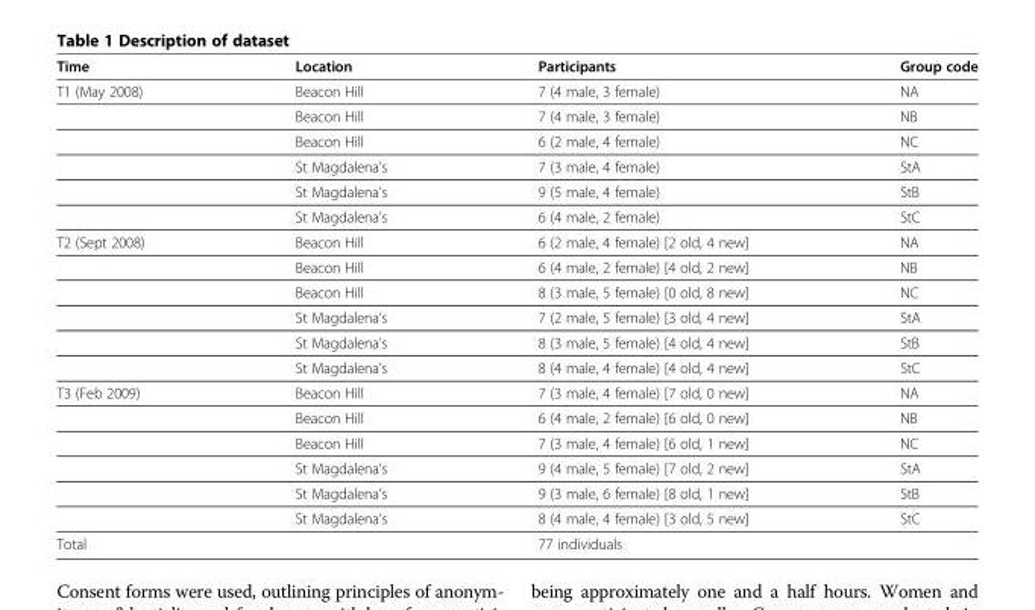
<table><thead><tr><td>Time</td><td>Location</td><td>Participants</td><td>Group code</td></tr></thead><tbody><tr><td rowspan="6">T1 (May 2008)</td><td>Beacon Hill</td><td>7 (4 male, 3 female)</td><td>NA</td></tr><tr><td>Beacon Hill</td><td>7 (4 male, 3 female)</td><td>NB</td></tr><tr><td>Beacon Hill</td><td>6 (2 male, 4 female)</td><td>NC</td></tr><tr><td>St Magdalena’s</td><td>7 (3 male, 4 female)</td><td>StA</td></tr><tr><td>St Magdalena’s</td><td>9 (5 male, 4 female)</td><td>StB</td></tr><tr><td>St Magdalena’s</td><td>6 (4 male, 2 female)</td><td>StC</td></tr><tr><td rowspan="6">T2 (Sept 2008)</td><td>Beacon Hill</td><td>6 (2 male, 4 female) [2 old, 4 new]</td><td>NA</td></tr><tr><td>Beacon Hill</td><td>6 (4 male, 2 female) [4 old, 2 new]</td><td>NB</td></tr><tr><td>Beacon Hill</td><td>8 (3 male, 5 female) [0 old, 8 new]</td><td>NC</td></tr><tr><td>St Magdalena’s</td><td>7 (2 male, 5 female) [3 old, 4 new]</td><td>StA</td></tr><tr><td>St Magdalena’s</td><td>8 (3 male, 5 female) [4 old, 4 new]</td><td>StB</td></tr><tr><td>St Magdalena’s</td><td>8 (4 male, 4 female) [4 old, 4 new]</td><td>StC</td></tr><tr><td rowspan="6">T3 (Feb 2009)</td><td>Beacon Hill</td><td>7 (3 male, 4 female) [7 old, 0 new]</td><td>NA</td></tr><tr><td>Beacon Hill</td><td>6 (4 male, 2 female) [6 old, 0 new]</td><td>NB</td></tr><tr><td>Beacon Hill</td><td>7 (3 male, 4 female) [6 old, 1 new]</td><td>NC</td></tr><tr><td>St Magdalena’s</td><td>9 (4 male, 5 female) [7 old, 2 new]</td><td>StA</td></tr><tr><td>St Magdalena’s</td><td>9 (3 male, 6 female) [8 old, 1 new]</td><td>StB</td></tr><tr><td>St Magdalena’s</td><td>8 (4 male, 4 female) [3 old, 5 new]</td><td>StC</td></tr><tr><td>Total</td><td></td><td>77 individuals</td><td></td></tr></tbody></table>